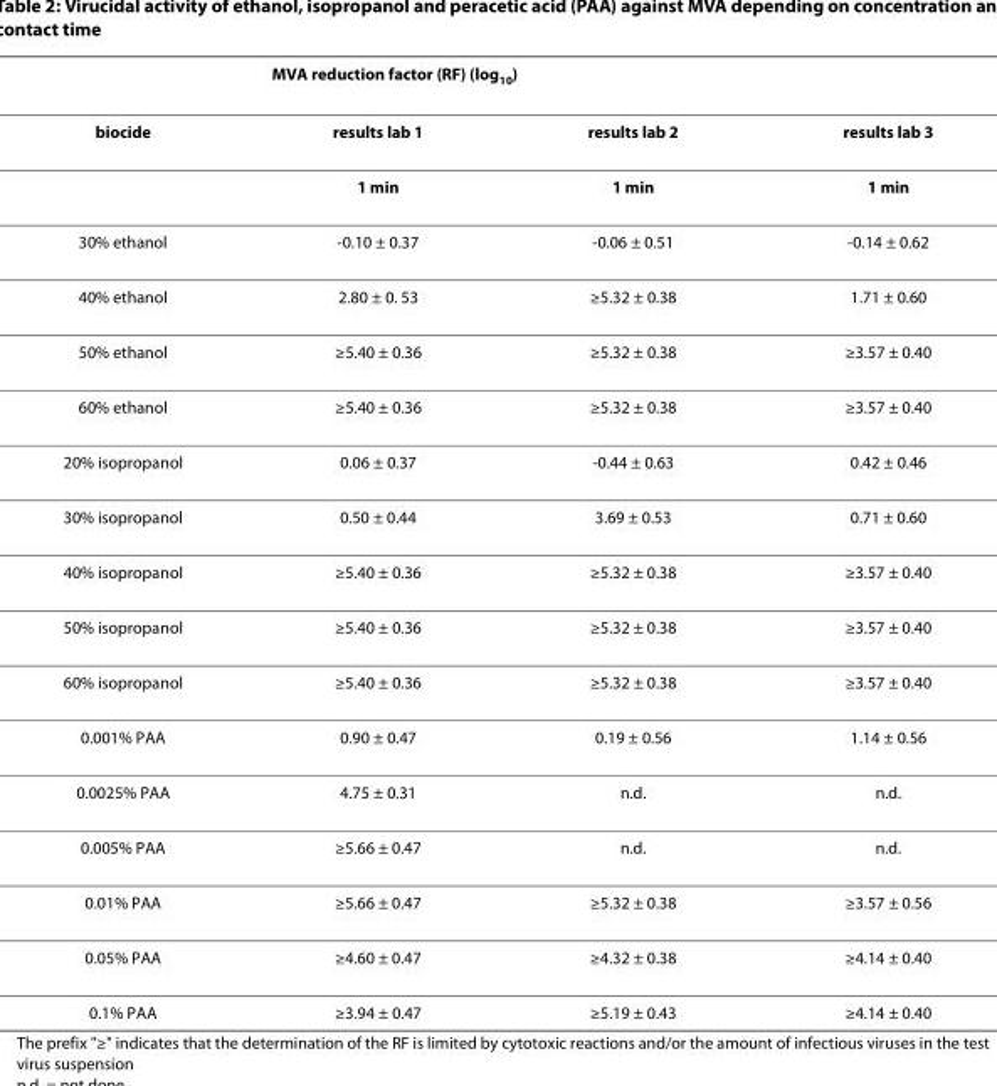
<table><thead><tr><td rowspan="2">biocide</td><td colspan="3">MVA reduction factor (RF) (log<sub>10</sub>)</td></tr><tr><td>results lab 1</td><td>results lab 2</td><td>results lab 3</td></tr></thead><tbody><tr><td></td><td>1 min</td><td>1 min</td><td>1 min</td></tr><tr><td>30% ethanol</td><td>-0.10 ± 0.37</td><td>-0.06 ± 0.51</td><td>-0.14 ± 0.62</td></tr><tr><td>40% ethanol</td><td>2.80 ± 0. 53</td><td>≥5.32 ± 0.38</td><td>1.71 ± 0.60</td></tr><tr><td>50% ethanol</td><td>≥5.40 ± 0.36</td><td>≥5.32 ± 0.38</td><td>≥3.57 ± 0.40</td></tr><tr><td>60% ethanol</td><td>≥5.40 ± 0.36</td><td>≥5.32 ± 0.38</td><td>≥3.57 ± 0.40</td></tr><tr><td>20% isopropanol</td><td>0.06 ± 0.37</td><td>-0.44 ± 0.63</td><td>0.42 ± 0.46</td></tr><tr><td>30% isopropanol</td><td>0.50 ± 0.44</td><td>3.69 ± 0.53</td><td>0.71 ± 0.60</td></tr><tr><td>40% isopropanol</td><td>≥5.40 ± 0.36</td><td>≥5.32 ± 0.38</td><td>≥3.57 ± 0.40</td></tr><tr><td>50% isopropanol</td><td>≥5.40 ± 0.36</td><td>≥5.32 ± 0.38</td><td>≥3.57 ± 0.40</td></tr><tr><td>60% isopropanol</td><td>≥5.40 ± 0.36</td><td>≥5.32 ± 0.38</td><td>≥3.57 ± 0.40</td></tr><tr><td>0.001% PAA</td><td>0.90 ± 0.47</td><td>0.19 ± 0.56</td><td>1.14 ± 0.56</td></tr><tr><td>0.0025% PAA</td><td>4.75 ± 0.31</td><td>n.d.</td><td>n.d.</td></tr><tr><td>0.005% PAA</td><td>≥5.66 ± 0.47</td><td>n.d.</td><td>n.d.</td></tr><tr><td>0.01% PAA</td><td>≥5.66 ± 0.47</td><td>≥5.32 ± 0.38</td><td>≥3.57 ± 0.56</td></tr><tr><td>0.05% PAA</td><td>≥4.60 ± 0.47</td><td>≥4.32 ± 0.38</td><td>≥4.14 ± 0.40</td></tr><tr><td>0.1% PAA</td><td>≥3.94 ± 0.47</td><td>≥5.19 ± 0.43</td><td>≥4.14 ± 0.40</td></tr></tbody></table>